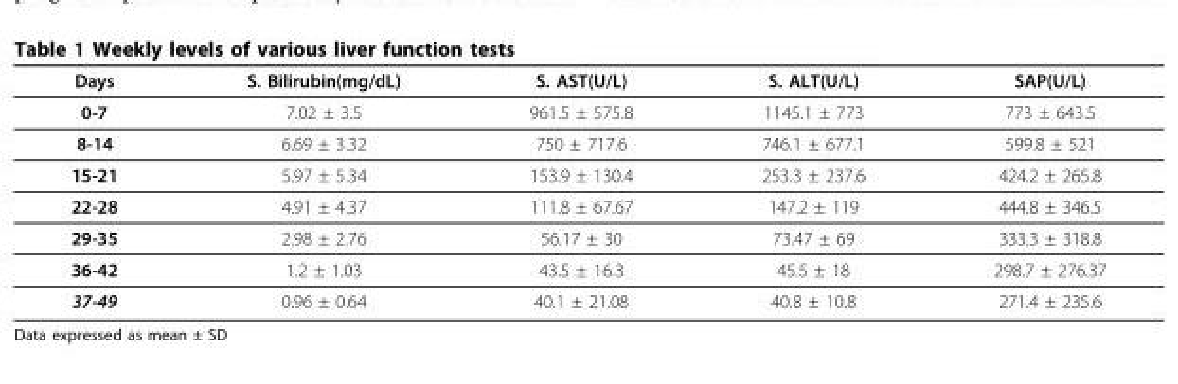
<table><thead><tr><td>Days</td><td>S. Bilirubin(mg/dL)</td><td>S. AST(U/L)</td><td>S. ALT(U/L)</td><td>SAP(U/L)</td></tr></thead><tbody><tr><td>0-7</td><td>7.02 ± 3.5</td><td>961.5 ± 575.8</td><td>1145.1 ± 773</td><td>773 ± 643.5</td></tr><tr><td>8-14</td><td>6.69 ± 3.32</td><td>750 ± 717.6</td><td>746.1 ± 677.1</td><td>599.8 ± 521</td></tr><tr><td>15-21</td><td>5.97 ± 5.34</td><td>153.9 ± 130.4</td><td>253.3 ± 237.6</td><td>424.2 ± 265.8</td></tr><tr><td>22-28</td><td>4.91 ± 4.37</td><td>111.8 ± 67.67</td><td>147.2 ± 119</td><td>444.8 ± 346.5</td></tr><tr><td>29-35</td><td>2.98 ± 2.76</td><td>56.17 ± 30</td><td>73.47 ± 69</td><td>333.3 ± 318.8</td></tr><tr><td>36-42</td><td>1.2 ± 1.03</td><td>43.5 ± 16.3</td><td>45.5 ± 18</td><td>298.7 ± 276.37</td></tr><tr><td>37-49</td><td>0.96 ± 0.64</td><td>40.1 ± 21.08</td><td>40.8 ± 10.8</td><td>271.4 ± 235.6</td></tr></tbody></table>